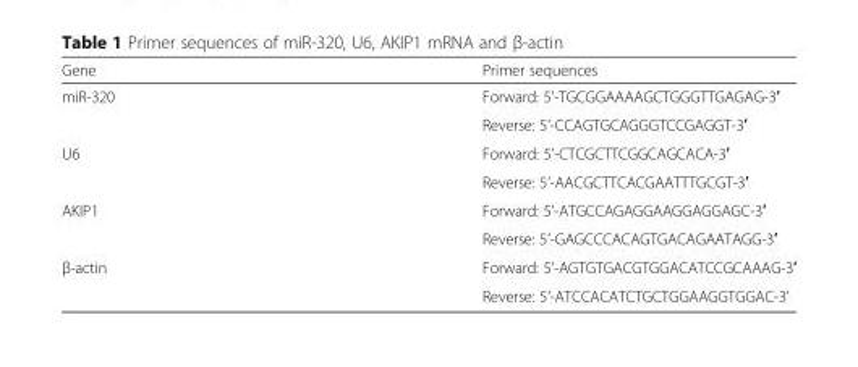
<table><thead><tr><td>Gene</td><td>Primer sequences</td></tr></thead><tbody><tr><td rowspan="2">miR-320</td><td>Forward: 5’-TGCGGAAAAGCTGGGTTGAGAG-3′</td></tr><tr><td>Reverse: 5’-CCAGTGCAGGGTCCGAGGT-3′</td></tr><tr><td rowspan="2">U6</td><td>Forward: 5’-CTCGCTTCGGCAGCACA-3′</td></tr><tr><td>Reverse: 5’-AACGCTTCACGAATTTGCGT-3′</td></tr><tr><td rowspan="2">AKIP1</td><td>Forward: 5’-ATGCCAGAGGAAGGAGGAGC-3′</td></tr><tr><td>Reverse: 5’-GAGCCCACAGTGACAGAATAGG-3′</td></tr><tr><td rowspan="2">β-actin</td><td>Forward: 5’-AGTGTGACGTGGACATCCGCAAAG-3′</td></tr><tr><td>Reverse: 5’-ATCCACATCTGCTGGAAGGTGGAC-3’</td></tr></tbody></table>